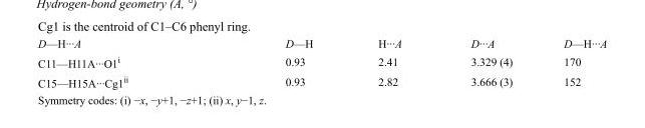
<table><tbody><tr><td>D—H···A</td><td>D—H</td><td>H···A</td><td>D···A</td><td>D—H···A</td></tr><tr><td>C11—H11A···O1<sup>i</sup></td><td>0.93</td><td>2.41</td><td>3.329 (4)</td><td>170</td></tr><tr><td>C15—H15A···Cg1<sup>ii</sup></td><td>0.93</td><td>2.82</td><td>3.666 (3)</td><td>152</td></tr></tbody></table>